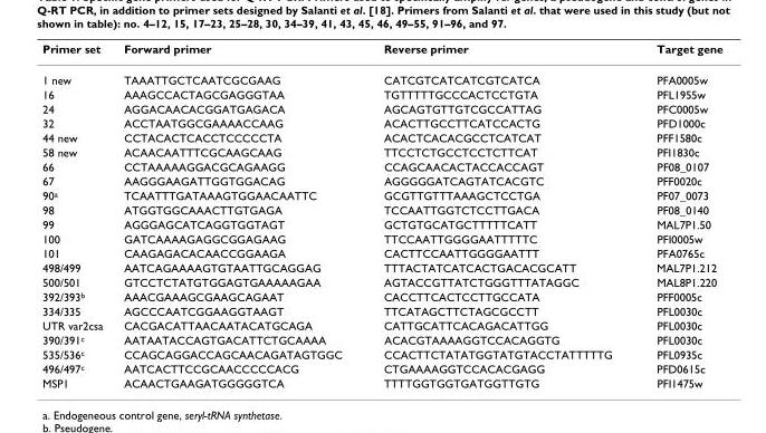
<table><thead><tr><td>Primer set</td><td>Forward primer</td><td>Reverse primer</td><td>Target gene</td></tr></thead><tbody><tr><td>1 new</td><td>TAAATTGCTCAATCGCGAAG</td><td>CATCGTCATCATCGTCATCA</td><td>PFA0005w</td></tr><tr><td>16</td><td>AAAGCCACTAGCGAGGGTAA</td><td>TGTTTTTGCCCACTCCTGTA</td><td>PFL1955w</td></tr><tr><td>24</td><td>AGGACAACACGGATGAGACA</td><td>AGCAGTGTTGTCGCCATTAG</td><td>PFC0005w</td></tr><tr><td>32</td><td>ACCTAATGGCGAAAACCAAG</td><td>ACACTTGCCTTCATCCACTG</td><td>PFD1000c</td></tr><tr><td>44 new</td><td>CCTACACTCACCTCCCCCTA</td><td>ACACTCACACGCCTCATCAT</td><td>PFF1580c</td></tr><tr><td>58 new</td><td>ACAACAATTTCGCAAGCAAG</td><td>TTCCTCTGCCTCCTCTTCAT</td><td>PFI1830c</td></tr><tr><td>66</td><td>CCTAAAAAGGACGCAGAAGG</td><td>CCAGCAACACTACCACCAGT</td><td>PF08_0107</td></tr><tr><td>67</td><td>AAGGGAAGATTGGTGGACAG</td><td>AGGGGGATCAGTATCACGTC</td><td>PFF0020c</td></tr><tr><td>90<sup>a</sup></td><td>TCAATTTGATAAAGTGGAACAATTC</td><td>GCGTTGTTTAAAGCTCCTGA</td><td>PF07_0073</td></tr><tr><td>98</td><td>ATGGTGGCAAACTTGTGAGA</td><td>TCCAATTGGTCTCCTTGACA</td><td>PF08_0140</td></tr><tr><td>99</td><td>AGGGAGCATCAGGTGGTAGT</td><td>GCTGTGCATGCTTTTTCATT</td><td>MAL7P1.50</td></tr><tr><td>100</td><td>GATCAAAAGAGGCGGAGAAG</td><td>TTCCAATTGGGGAATTTTTC</td><td>PFI0005w</td></tr><tr><td>101</td><td>CAAGAGACACAACCGGAAGA</td><td>CACTTCCAATTGGGGAATTT</td><td>PFA0765c</td></tr><tr><td>498/499</td><td>AATCAGAAAAGTGTAATTGCAGGAG</td><td>TTTACTATCATCACTGACACGCATT</td><td>MAL7P1.212</td></tr><tr><td>500/501</td><td>GTCCTCTATGTGGAGTGAAAAAGAA</td><td>AGTACCGTTATCTGGGTTTATAGGC</td><td>MAL8P1.220</td></tr><tr><td>392/393<sup>b</sup></td><td>AAACGAAAGCGAAGCAGAAT</td><td>CACCTTCACTCCTTGCCATA</td><td>PFF0005c</td></tr><tr><td>334/335</td><td>AGCCCAATCGGAAGGTAAGT</td><td>TTCATAGCTTCTAGCGCCTT</td><td>PFL0030c</td></tr><tr><td>UTR var2csa</td><td>CACGACATTAACAATACATGCAGA</td><td>CATTGCATTCACAGACATTGG</td><td>PFL0030c</td></tr><tr><td>390/391<sup>c</sup></td><td>AATAATACCAGTGACATTCTGCAAAA</td><td>ACACGTAAAAGGTCCACAGGTG</td><td>PFL0030c</td></tr><tr><td>535/536<sup>c</sup></td><td>CCAGCAGGACCAGCAACAGATAGTGGC</td><td>CCACTTCTATATGGTATGTACCTATTTTTG</td><td>PFL0935c</td></tr><tr><td>496/497<sup>c</sup></td><td>AATCACTTCCGCAACCCCCACG</td><td>CTGAAAAGGTCCACACGAGG</td><td>PFD0615c</td></tr><tr><td>MSP1</td><td>ACAACTGAAGATGGGGGTCA</td><td>TTTTGGTGGTGATGGTTGTG</td><td>PFI1475w</td></tr></tbody></table>